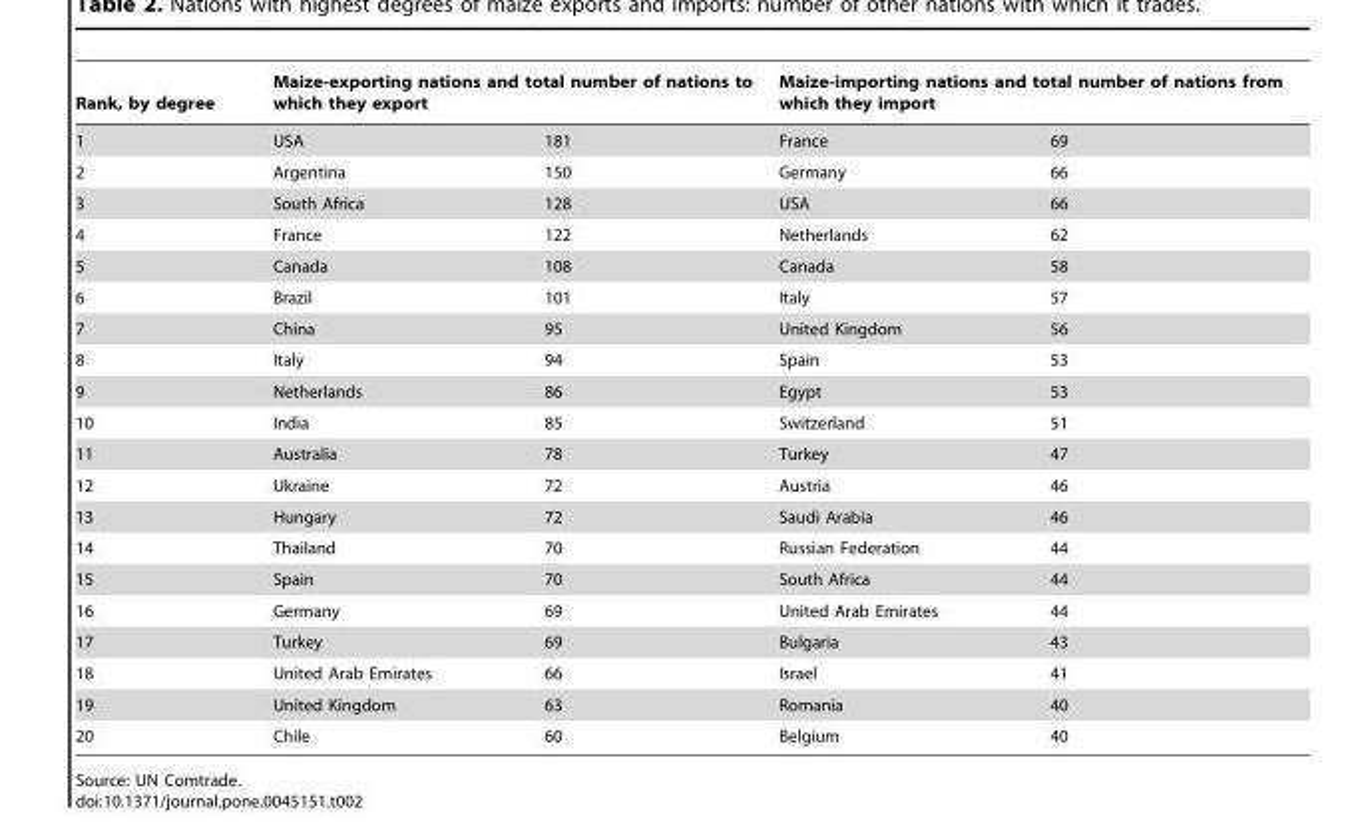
<table><thead><tr><td rowspan="2">Rank, by degree 1</td><td colspan="2">Maize-exporting nations and total number of nations to which they export</td><td colspan="2">Maize-importing nations and total number of nations from which they import</td></tr><tr><td>USA</td><td>181</td><td>France</td><td>69</td></tr></thead><tbody><tr><td>2</td><td>Argentina</td><td>150</td><td>Germany</td><td>66</td></tr><tr><td>3</td><td>South Africa</td><td>128</td><td>USA</td><td>66</td></tr><tr><td>4</td><td>France</td><td>122</td><td>Netherlands</td><td>62</td></tr><tr><td>5</td><td>Canada</td><td>108</td><td>Canada</td><td>58</td></tr><tr><td>6</td><td>Brazil</td><td>101</td><td>Italy</td><td>57</td></tr><tr><td>7</td><td>China</td><td>95</td><td>United Kingdom</td><td>56</td></tr><tr><td>8</td><td>Italy</td><td>94</td><td>Spain</td><td>53</td></tr><tr><td>9</td><td>Netherlands</td><td>86</td><td>Egypt</td><td>53</td></tr><tr><td>10</td><td>India</td><td>85</td><td>Switzerland</td><td>51</td></tr><tr><td>11</td><td>Australia</td><td>78</td><td>Turkey</td><td>47</td></tr><tr><td>12</td><td>Ukraine</td><td>72</td><td>Austria</td><td>46</td></tr><tr><td>13</td><td>Hungary</td><td>72</td><td>Saudi Arabia</td><td>46</td></tr><tr><td>14</td><td>Thailand</td><td>70</td><td>Russian Federation</td><td>44</td></tr><tr><td>15</td><td>Spain</td><td>70</td><td>South Africa</td><td>44</td></tr><tr><td>16</td><td>Germany</td><td>69</td><td>United Arab Emirates</td><td>44</td></tr><tr><td>17</td><td>Turkey</td><td>69</td><td>Bulgaria</td><td>43</td></tr><tr><td>18</td><td>United Arab Emirates</td><td>66</td><td>Israel</td><td>41</td></tr><tr><td>19</td><td>United Kingdom</td><td>63</td><td>Romania</td><td>40</td></tr><tr><td>20</td><td>Chile</td><td>60</td><td>Belgium</td><td>40</td></tr></tbody></table>